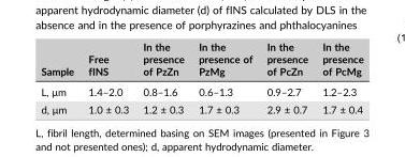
<table><thead><tr><td>Sample</td><td>Free fINS</td><td>In the presence of PzZn</td><td>In the presence of PzMg</td><td>In the presence of PcZn</td><td>In the presence of PcMg</td></tr></thead><tbody><tr><td>L, μm</td><td>1.4–2.0</td><td>0.8–1.6</td><td>0.6–1.3</td><td>0.9–2.7</td><td>1.2–2.3</td></tr><tr><td>d, μm</td><td>1.0 ± 0.3</td><td>1.2 ± 0.3</td><td>1.7 ± 0.3</td><td>2.9 ± 0.7</td><td>1.7 ± 0.4</td></tr></tbody></table>